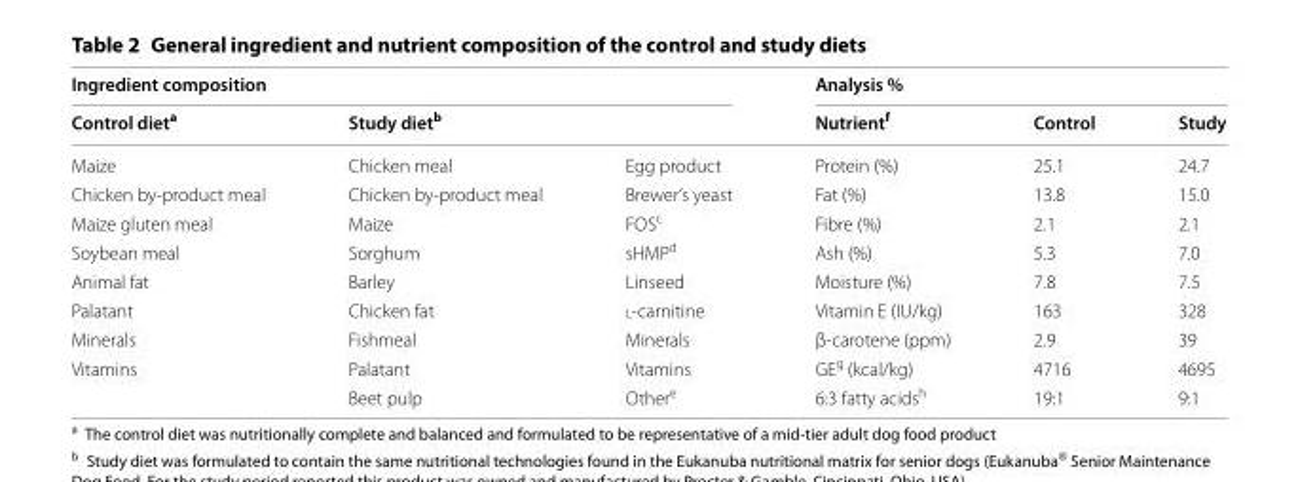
<table><thead><tr><td colspan="3">Ingredient composition</td><td colspan="3">Analysis %</td></tr><tr><td rowspan="2">Control diet<sup>a</sup> Maize</td><td colspan="2">Study diet<sup>b</sup></td><td rowspan="2">Nutrient<sup>f</sup> Protein (%)</td><td rowspan="2">Control 25.1</td><td rowspan="2">Study 24.7</td></tr><tr><td>Chicken meal</td><td>Egg product</td></tr></thead><tbody><tr><td>Chicken by-product meal</td><td>Chicken by-product meal</td><td>Brewer’s yeast</td><td>Fat (%)</td><td>13.8</td><td>15.0</td></tr><tr><td>Maize gluten meal</td><td>Maize</td><td>FOS<sup>c</sup></td><td>Fibre (%)</td><td>2.1</td><td>2.1</td></tr><tr><td>Soybean meal</td><td>Sorghum</td><td>sHMP<sup>d</sup></td><td>Ash (%)</td><td>5.3</td><td>7.0</td></tr><tr><td>Animal fat</td><td>Barley</td><td>Linseed</td><td>Moisture (%)</td><td>7.8</td><td>7.5</td></tr><tr><td>Palatant</td><td>Chicken fat</td><td>l-carnitine</td><td>Vitamin E (IU/kg)</td><td>163</td><td>328</td></tr><tr><td>Minerals</td><td>Fishmeal</td><td>Minerals</td><td>β-carotene (ppm)</td><td>2.9</td><td>39</td></tr><tr><td rowspan="2">Vitamins</td><td>Palatant</td><td>Vitamins</td><td>GE<sup>g</sup> (kcal/kg)</td><td>4716</td><td>4695</td></tr><tr><td>Beet pulp</td><td>Other<sup>e</sup></td><td>6:3 fatty acids<sup>h</sup></td><td>19:1</td><td>9:1</td></tr></tbody></table>